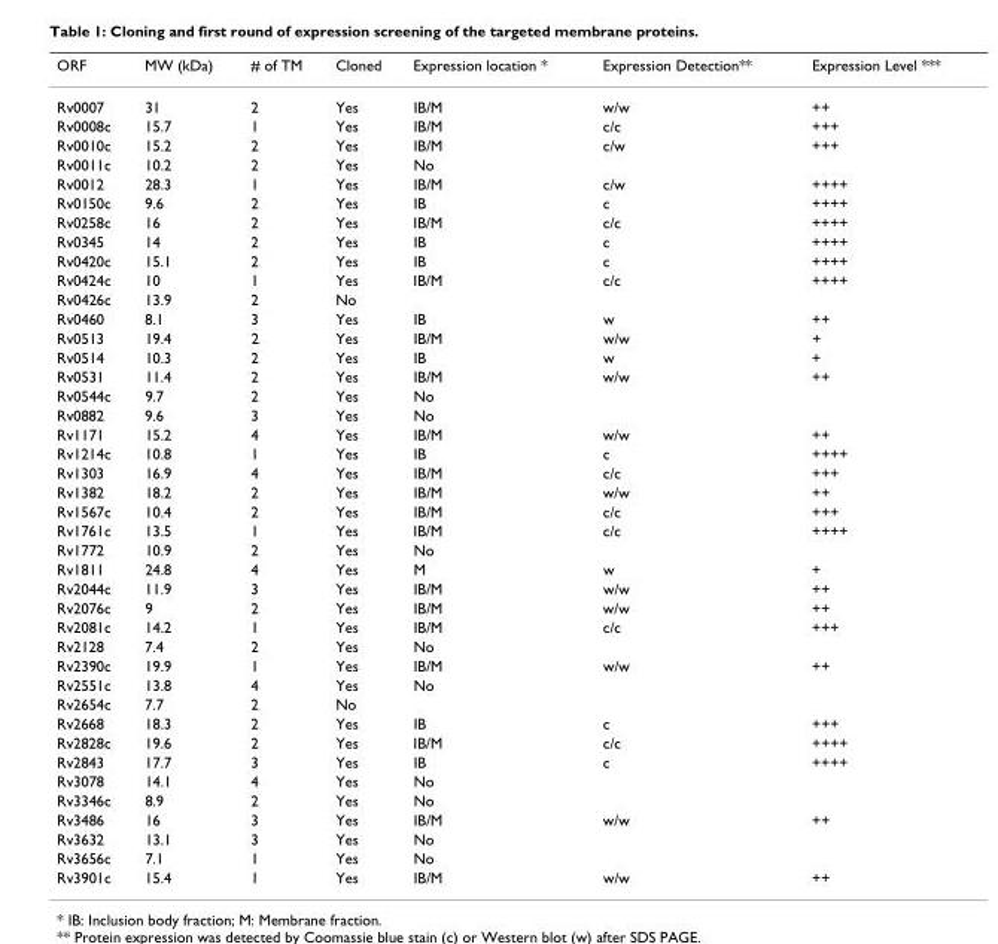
<table><thead><tr><td>ORF</td><td>MW (kDa)</td><td># of TM</td><td>Cloned</td><td>Expression location *</td><td>Expression Detection**</td><td>Expression Level ***</td></tr></thead><tbody><tr><td>Rv0007</td><td>31</td><td>2</td><td>Yes</td><td>IB/M</td><td>w/w</td><td>++</td></tr><tr><td>Rv0008c</td><td>15.7</td><td>1</td><td>Yes</td><td>IB/M</td><td>c/c</td><td>+++</td></tr><tr><td>Rv0010c</td><td>15.2</td><td>2</td><td>Yes</td><td>IB/M</td><td>c/w</td><td>+++</td></tr><tr><td>Rv0011c</td><td>10.2</td><td>2</td><td>Yes</td><td>No</td><td></td><td></td></tr><tr><td>Rv0012</td><td>28.3</td><td>1</td><td>Yes</td><td>IB/M</td><td>c/w</td><td>++++</td></tr><tr><td>Rv0150c</td><td>9.6</td><td>2</td><td>Yes</td><td>IB</td><td>c</td><td>++++</td></tr><tr><td>Rv0258c</td><td>16</td><td>2</td><td>Yes</td><td>IB/M</td><td>c/c</td><td>++++</td></tr><tr><td>Rv0345</td><td>14</td><td>2</td><td>Yes</td><td>IB</td><td>c</td><td>++++</td></tr><tr><td>Rv0420c</td><td>15.1</td><td>2</td><td>Yes</td><td>IB</td><td>c</td><td>++++</td></tr><tr><td>Rv0424c</td><td>10</td><td>1</td><td>Yes</td><td>IB/M</td><td>c/c</td><td>++++</td></tr><tr><td>Rv0426c</td><td>13.9</td><td>2</td><td>No</td><td></td><td></td><td></td></tr><tr><td>Rv0460</td><td>8.1</td><td>3</td><td>Yes</td><td>IB</td><td>w</td><td>++</td></tr><tr><td>Rv0513</td><td>19.4</td><td>2</td><td>Yes</td><td>IB/M</td><td>w/w</td><td>+</td></tr><tr><td>Rv0514</td><td>10.3</td><td>2</td><td>Yes</td><td>IB</td><td>w</td><td>+</td></tr><tr><td>Rv0531</td><td>11.4</td><td>2</td><td>Yes</td><td>IB/M</td><td>w/w</td><td>++</td></tr><tr><td>Rv0544c</td><td>9.7</td><td>2</td><td>Yes</td><td>No</td><td></td><td></td></tr><tr><td>Rv0882</td><td>9.6</td><td>3</td><td>Yes</td><td>No</td><td></td><td></td></tr><tr><td>Rv1171</td><td>15.2</td><td>4</td><td>Yes</td><td>IB/M</td><td>w/w</td><td>++</td></tr><tr><td>Rv1214c</td><td>10.8</td><td>1</td><td>Yes</td><td>IB</td><td>c</td><td>++++</td></tr><tr><td>Rv1303</td><td>16.9</td><td>4</td><td>Yes</td><td>IB/M</td><td>c/c</td><td>+++</td></tr><tr><td>Rv1382</td><td>18.2</td><td>2</td><td>Yes</td><td>IB/M</td><td>w/w</td><td>++</td></tr><tr><td>Rv1567c</td><td>10.4</td><td>2</td><td>Yes</td><td>IB/M</td><td>c/c</td><td>+++</td></tr><tr><td>Rv1761c</td><td>13.5</td><td>1</td><td>Yes</td><td>IB/M</td><td>c/c</td><td>++++</td></tr><tr><td>Rv1772</td><td>10.9</td><td>2</td><td>Yes</td><td>No</td><td></td><td></td></tr><tr><td>Rv1811</td><td>24.8</td><td>4</td><td>Yes</td><td>M</td><td>w</td><td>+</td></tr><tr><td>Rv2044c</td><td>11.9</td><td>3</td><td>Yes</td><td>IB/M</td><td>w/w</td><td>++</td></tr><tr><td>Rv2076c</td><td>9</td><td>2</td><td>Yes</td><td>IB/M</td><td>w/w</td><td>++</td></tr><tr><td>Rv2081c</td><td>14.2</td><td>1</td><td>Yes</td><td>IB/M</td><td>c/c</td><td>+++</td></tr><tr><td>Rv2128</td><td>7.4</td><td>2</td><td>Yes</td><td>No</td><td></td><td></td></tr><tr><td>Rv2390c</td><td>19.9</td><td>1</td><td>Yes</td><td>IB/M</td><td>w/w</td><td>++</td></tr><tr><td>Rv2551c</td><td>13.8</td><td>4</td><td>Yes</td><td>No</td><td></td><td></td></tr><tr><td>Rv2654c</td><td>7.7</td><td>2</td><td>No</td><td></td><td></td><td></td></tr><tr><td>Rv2668</td><td>18.3</td><td>2</td><td>Yes</td><td>IB</td><td>c</td><td>+++</td></tr><tr><td>Rv2828c</td><td>19.6</td><td>2</td><td>Yes</td><td>IB/M</td><td>c/c</td><td>++++</td></tr><tr><td>Rv2843</td><td>17.7</td><td>3</td><td>Yes</td><td>IB</td><td>c</td><td>++++</td></tr><tr><td>Rv3078</td><td>14.1</td><td>4</td><td>Yes</td><td>No</td><td></td><td></td></tr><tr><td>Rv3346c</td><td>8.9</td><td>2</td><td>Yes</td><td>No</td><td></td><td></td></tr><tr><td>Rv3486</td><td>16</td><td>3</td><td>Yes</td><td>IB/M</td><td>w/w</td><td>++</td></tr><tr><td>Rv3632</td><td>13.1</td><td>3</td><td>Yes</td><td>No</td><td></td><td></td></tr><tr><td>Rv3656c</td><td>7.1</td><td>1</td><td>Yes</td><td>No</td><td></td><td></td></tr><tr><td>Rv3901c</td><td>15.4</td><td>1</td><td>Yes</td><td>IB/M</td><td>w/w</td><td>++</td></tr></tbody></table>